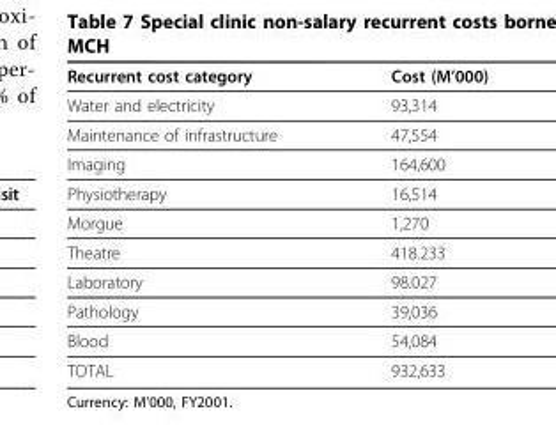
<table><thead><tr><td>Recurrent cost category</td><td>Cost (M’000)</td></tr></thead><tbody><tr><td>Water and electricity</td><td>93,314</td></tr><tr><td>Maintenance of infrastructure</td><td>47,554</td></tr><tr><td>Imaging</td><td>164,600</td></tr><tr><td>Physiotherapy</td><td>16,514</td></tr><tr><td>Morgue</td><td>1,270</td></tr><tr><td>Theatre</td><td>418.233</td></tr><tr><td>Laboratory</td><td>98.027</td></tr><tr><td>Pathology</td><td>39,036</td></tr><tr><td>Blood</td><td>54,084</td></tr><tr><td>TOTAL</td><td>932,633</td></tr></tbody></table>